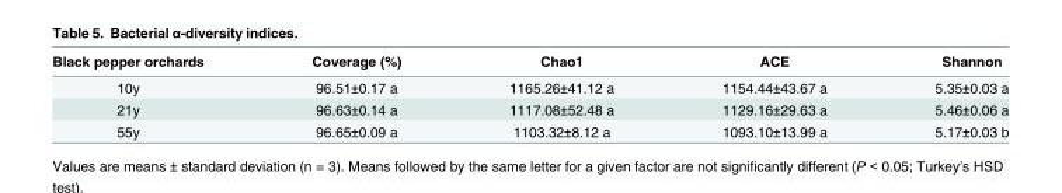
<table><thead><tr><td>Black pepper orchards</td><td>Coverage (%)</td><td>Chao1</td><td>ACE</td><td>Shannon</td></tr></thead><tbody><tr><td>10y</td><td>96.51±0.17 a</td><td>1165.26±41.12 a</td><td>1154.44±43.67 a</td><td>5.35±0.03 a</td></tr><tr><td>21y</td><td>96.63±0.14 a</td><td>1117.08±52.48 a</td><td>1129.16±29.63 a</td><td>5.46±0.06 a</td></tr><tr><td>55y</td><td>96.65±0.09 a</td><td>1103.32±8.12 a</td><td>1093.10±13.99 a</td><td>5.17±0.03 b</td></tr></tbody></table>